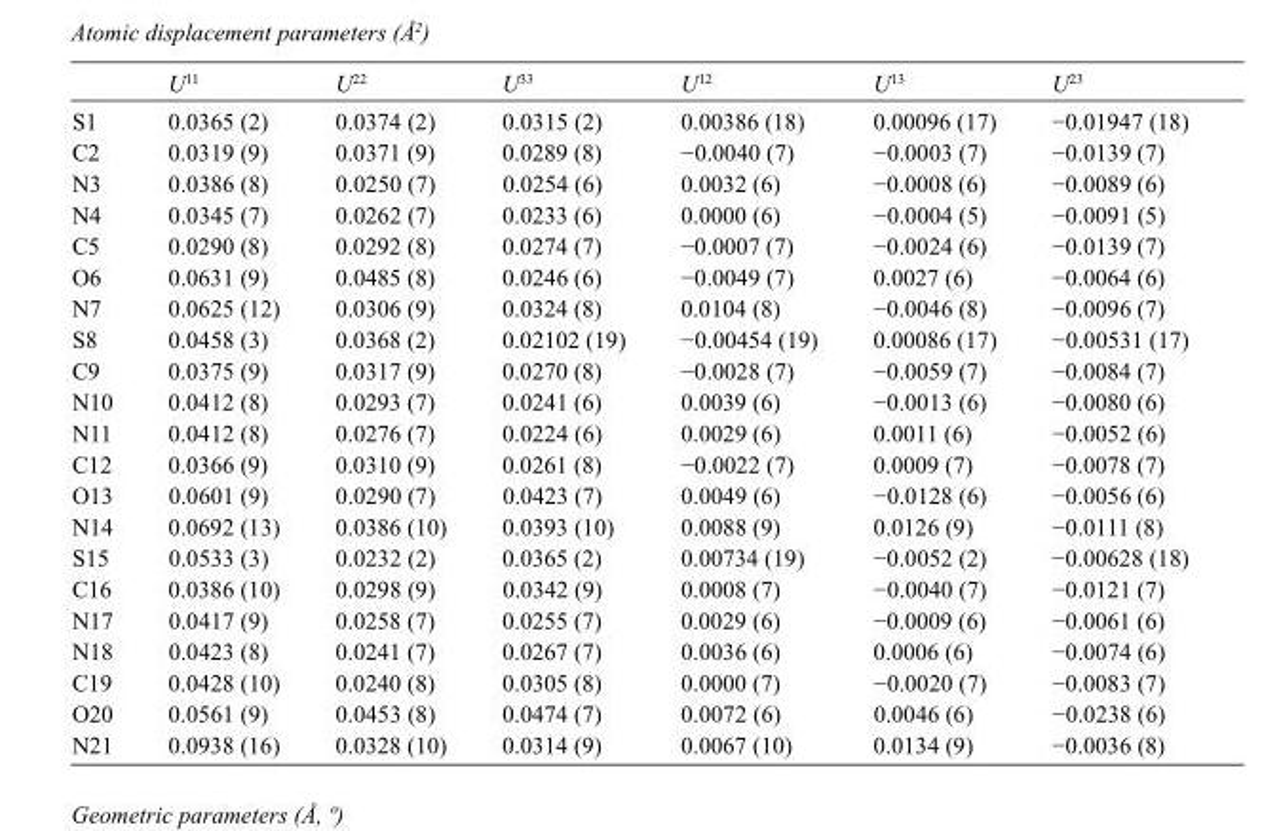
<table><thead><tr><td></td><td>U<sup>11</sup></td><td>U<sup>22</sup></td><td>U<sup>33</sup></td><td>U<sup>12</sup></td><td>U<sup>13</sup></td><td>U<sup>23</sup></td></tr></thead><tbody><tr><td>S1</td><td>0.0365 (2)</td><td>0.0374 (2)</td><td>0.0315 (2)</td><td>0.00386 (18)</td><td>0.00096 (17)</td><td>−0.01947 (18)</td></tr><tr><td>C2</td><td>0.0319 (9)</td><td>0.0371 (9)</td><td>0.0289 (8)</td><td>−0.0040 (7)</td><td>−0.0003 (7)</td><td>−0.0139 (7)</td></tr><tr><td>N3</td><td>0.0386 (8)</td><td>0.0250 (7)</td><td>0.0254 (6)</td><td>0.0032 (6)</td><td>−0.0008 (6)</td><td>−0.0089 (6)</td></tr><tr><td>N4</td><td>0.0345 (7)</td><td>0.0262 (7)</td><td>0.0233 (6)</td><td>0.0000 (6)</td><td>−0.0004 (5)</td><td>−0.0091 (5)</td></tr><tr><td>C5</td><td>0.0290 (8)</td><td>0.0292 (8)</td><td>0.0274 (7)</td><td>−0.0007 (7)</td><td>−0.0024 (6)</td><td>−0.0139 (7)</td></tr><tr><td>O6</td><td>0.0631 (9)</td><td>0.0485 (8)</td><td>0.0246 (6)</td><td>−0.0049 (7)</td><td>0.0027 (6)</td><td>−0.0064 (6)</td></tr><tr><td>N7</td><td>0.0625 (12)</td><td>0.0306 (9)</td><td>0.0324 (8)</td><td>0.0104 (8)</td><td>−0.0046 (8)</td><td>−0.0096 (7)</td></tr><tr><td>S8</td><td>0.0458 (3)</td><td>0.0368 (2)</td><td>0.02102 (19)</td><td>−0.00454 (19)</td><td>0.00086 (17)</td><td>−0.00531 (17)</td></tr><tr><td>C9</td><td>0.0375 (9)</td><td>0.0317 (9)</td><td>0.0270 (8)</td><td>−0.0028 (7)</td><td>−0.0059 (7)</td><td>−0.0084 (7)</td></tr><tr><td>N10</td><td>0.0412 (8)</td><td>0.0293 (7)</td><td>0.0241 (6)</td><td>0.0039 (6)</td><td>−0.0013 (6)</td><td>−0.0080 (6)</td></tr><tr><td>N11</td><td>0.0412 (8)</td><td>0.0276 (7)</td><td>0.0224 (6)</td><td>0.0029 (6)</td><td>0.0011 (6)</td><td>−0.0052 (6)</td></tr><tr><td>C12</td><td>0.0366 (9)</td><td>0.0310 (9)</td><td>0.0261 (8)</td><td>−0.0022 (7)</td><td>0.0009 (7)</td><td>−0.0078 (7)</td></tr><tr><td>O13</td><td>0.0601 (9)</td><td>0.0290 (7)</td><td>0.0423 (7)</td><td>0.0049 (6)</td><td>−0.0128 (6)</td><td>−0.0056 (6)</td></tr><tr><td>N14</td><td>0.0692 (13)</td><td>0.0386 (10)</td><td>0.0393 (10)</td><td>0.0088 (9)</td><td>0.0126 (9)</td><td>−0.0111 (8)</td></tr><tr><td>S15</td><td>0.0533 (3)</td><td>0.0232 (2)</td><td>0.0365 (2)</td><td>0.00734 (19)</td><td>−0.0052 (2)</td><td>−0.00628 (18)</td></tr><tr><td>C16</td><td>0.0386 (10)</td><td>0.0298 (9)</td><td>0.0342 (9)</td><td>0.0008 (7)</td><td>−0.0040 (7)</td><td>−0.0121 (7)</td></tr><tr><td>N17</td><td>0.0417 (9)</td><td>0.0258 (7)</td><td>0.0255 (7)</td><td>0.0029 (6)</td><td>−0.0009 (6)</td><td>−0.0061 (6)</td></tr><tr><td>N18</td><td>0.0423 (8)</td><td>0.0241 (7)</td><td>0.0267 (7)</td><td>0.0036 (6)</td><td>0.0006 (6)</td><td>−0.0074 (6)</td></tr><tr><td>C19</td><td>0.0428 (10)</td><td>0.0240 (8)</td><td>0.0305 (8)</td><td>0.0000 (7)</td><td>−0.0020 (7)</td><td>−0.0083 (7)</td></tr><tr><td>O20</td><td>0.0561 (9)</td><td>0.0453 (8)</td><td>0.0474 (7)</td><td>0.0072 (6)</td><td>0.0046 (6)</td><td>−0.0238 (6)</td></tr><tr><td>N21</td><td>0.0938 (16)</td><td>0.0328 (10)</td><td>0.0314 (9)</td><td>0.0067 (10)</td><td>0.0134 (9)</td><td>−0.0036 (8)</td></tr></tbody></table>